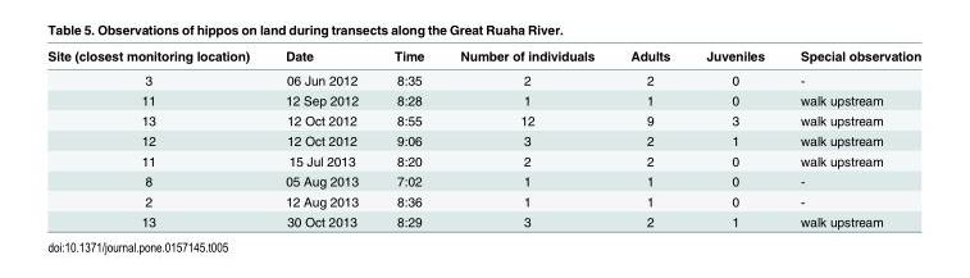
<table><thead><tr><td>Site (closest monitoring location)</td><td>Date</td><td>Time</td><td>Number of individuals</td><td>Adults</td><td>Juveniles</td><td>Special observation</td></tr></thead><tbody><tr><td>3</td><td>06 Jun 2012</td><td>8:35</td><td>2</td><td>2</td><td>0</td><td>-</td></tr><tr><td>11</td><td>12 Sep 2012</td><td>8:28</td><td>1</td><td>1</td><td>0</td><td>walk upstream</td></tr><tr><td>13</td><td>12 Oct 2012</td><td>8:55</td><td>12</td><td>9</td><td>3</td><td>walk upstream</td></tr><tr><td>12</td><td>12 Oct 2012</td><td>9:06</td><td>3</td><td>2</td><td>1</td><td>walk upstream</td></tr><tr><td>11</td><td>15 Jul 2013</td><td>8:20</td><td>2</td><td>2</td><td>0</td><td>walk upstream</td></tr><tr><td>8</td><td>05 Aug 2013</td><td>7:02</td><td>1</td><td>1</td><td>0</td><td>-</td></tr><tr><td>2</td><td>12 Aug 2013</td><td>8:36</td><td>1</td><td>1</td><td>0</td><td>-</td></tr><tr><td>13</td><td>30 Oct 2013</td><td>8:29</td><td>3</td><td>2</td><td>1</td><td>walk upstream</td></tr></tbody></table>